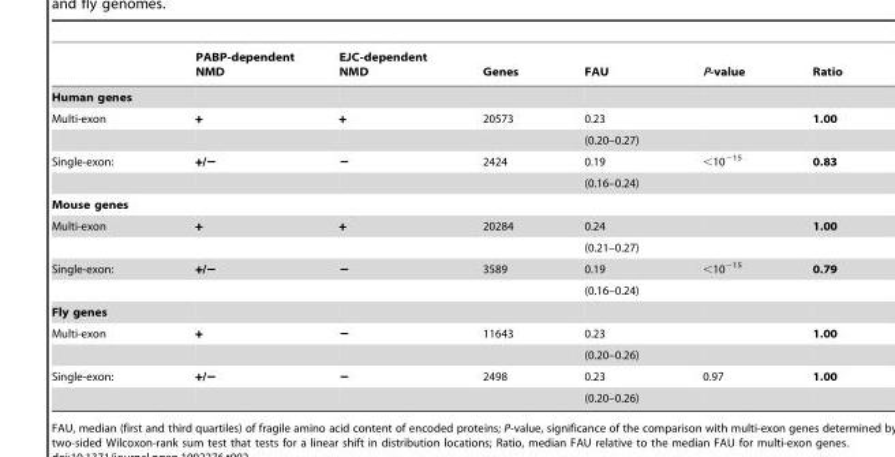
<table><thead><tr><td></td><td>PABP-dependent NMD</td><td>EJC-dependent NMD</td><td>Genes</td><td>FAU</td><td>P-value</td><td>Ratio</td></tr></thead><tbody><tr><td colspan="7">Human genes</td></tr><tr><td rowspan="2">Multi-exon</td><td>+</td><td>+</td><td>20573</td><td>0.23</td><td></td><td>1.00</td></tr><tr><td></td><td></td><td></td><td>(0.20–0.27)</td><td></td><td></td></tr><tr><td rowspan="2">Single-exon:</td><td>+/−</td><td>−</td><td>2424</td><td>0.19</td><td>&lt;10<sup>−15</sup></td><td>0.83</td></tr><tr><td></td><td></td><td></td><td>(0.16–0.24)</td><td></td><td></td></tr><tr><td colspan="7">Mouse genes</td></tr><tr><td rowspan="2">Multi-exon</td><td>+</td><td>+</td><td>20284</td><td>0.24</td><td></td><td>1.00</td></tr><tr><td></td><td></td><td></td><td>(0.21–0.27)</td><td></td><td></td></tr><tr><td rowspan="2">Single-exon:</td><td>+/−</td><td>−</td><td>3589</td><td>0.19</td><td>&lt;10<sup>−15</sup></td><td>0.79</td></tr><tr><td></td><td></td><td></td><td>(0.16–0.24)</td><td></td><td></td></tr><tr><td colspan="7">Fly genes</td></tr><tr><td rowspan="2">Multi-exon</td><td>+</td><td>−</td><td>11643</td><td>0.23</td><td></td><td>1.00</td></tr><tr><td></td><td></td><td></td><td>(0.20–0.26)</td><td></td><td></td></tr><tr><td rowspan="2">Single-exon:</td><td>+/−</td><td>−</td><td>2498</td><td>0.23</td><td>0.97</td><td>1.00</td></tr><tr><td></td><td></td><td></td><td>(0.20–0.26)</td><td></td><td></td></tr></tbody></table>